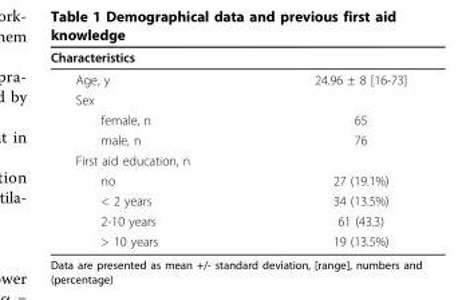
<table><thead><tr><td>Characteristics</td><td></td></tr></thead><tbody><tr><td>Age, y</td><td>24.96 ± 8 [16-73]</td></tr><tr><td colspan="2">Sex</td></tr><tr><td>female, n</td><td>65</td></tr><tr><td>male, n</td><td>76</td></tr><tr><td colspan="2">First aid education, n</td></tr><tr><td>no</td><td>27 (19.1%)</td></tr><tr><td>&lt; 2 years</td><td>34 (13.5%)</td></tr><tr><td>2-10 years</td><td>61 (43.3)</td></tr><tr><td>&gt; 10 years</td><td>19 (13.5%)</td></tr></tbody></table>